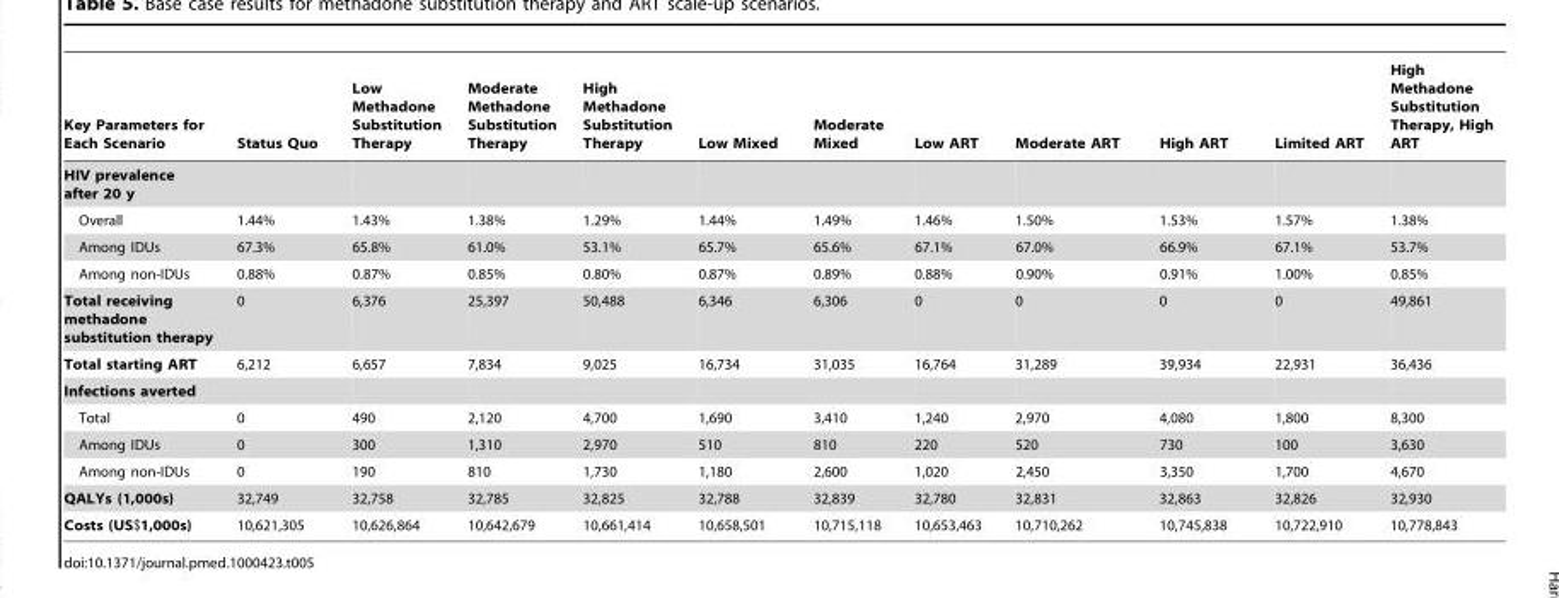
<table><thead><tr><td>Key Parameters for Each Scenario</td><td>Status Quo</td><td>Low Methadone Substitution Therapy</td><td>Moderate Methadone Substitution Therapy</td><td>High Methadone Substitution Therapy</td><td>Low Mixed</td><td>Moderate Mixed</td><td>Low ART</td><td>Moderate ART</td><td>High ART</td><td>Limited ART</td><td>High Methadone Substitution Therapy, High ART</td></tr></thead><tbody><tr><td colspan="12">HIV prevalence after 20 y</td></tr><tr><td>Overall</td><td>1.44%</td><td>1.43%</td><td>1.38%</td><td>1.29%</td><td>1.44%</td><td>1.49%</td><td>1.46%</td><td>1.50%</td><td>1.53%</td><td>1.57%</td><td>1.38%</td></tr><tr><td>Among IDUs</td><td>67.3%</td><td>65.8%</td><td>61.0%</td><td>53.1%</td><td>65.7%</td><td>65.6%</td><td>67.1%</td><td>67.0%</td><td>66.9%</td><td>67.1%</td><td>53.7%</td></tr><tr><td>Among non-IDUs</td><td>0.88%</td><td>0.87%</td><td>0.85%</td><td>0.80%</td><td>0.87%</td><td>0.89%</td><td>0.88%</td><td>0.90%</td><td>0.91%</td><td>1.00%</td><td>0.85%</td></tr><tr><td>Total receiving methadone substitution therapy</td><td>0</td><td>6,376</td><td>25,397</td><td>50,488</td><td>6,346</td><td>6,306</td><td>0</td><td>0</td><td>0</td><td>0</td><td>49,861</td></tr><tr><td>Total starting ART</td><td>6,212</td><td>6,657</td><td>7,834</td><td>9,025</td><td>16,734</td><td>31,035</td><td>16,764</td><td>31,289</td><td>39,934</td><td>22,931</td><td>36,436</td></tr><tr><td colspan="12">Infections averted</td></tr><tr><td>Total</td><td>0</td><td>490</td><td>2,120</td><td>4,700</td><td>1,690</td><td>3,410</td><td>1,240</td><td>2,970</td><td>4,080</td><td>1,800</td><td>8,300</td></tr><tr><td>Among IDUs</td><td>0</td><td>300</td><td>1,310</td><td>2,970</td><td>510</td><td>810</td><td>220</td><td>520</td><td>730</td><td>100</td><td>3,630</td></tr><tr><td>Among non-IDUs</td><td>0</td><td>190</td><td>810</td><td>1,730</td><td>1,180</td><td>2,600</td><td>1,020</td><td>2,450</td><td>3,350</td><td>1,700</td><td>4,670</td></tr><tr><td>QALYs (1,000s)</td><td>32,749</td><td>32,758</td><td>32,785</td><td>32,825</td><td>32,788</td><td>32,839</td><td>32,780</td><td>32,831</td><td>32,863</td><td>32,826</td><td>32,930</td></tr><tr><td>Costs (US$1,000s)</td><td>10,621,305</td><td>10,626,864</td><td>10,642,679</td><td>10,661,414</td><td>10,658,501</td><td>10,715,118</td><td>10,653,463</td><td>10,710,262</td><td>10,745,838</td><td>10,722,910</td><td>10,778,843</td></tr></tbody></table>